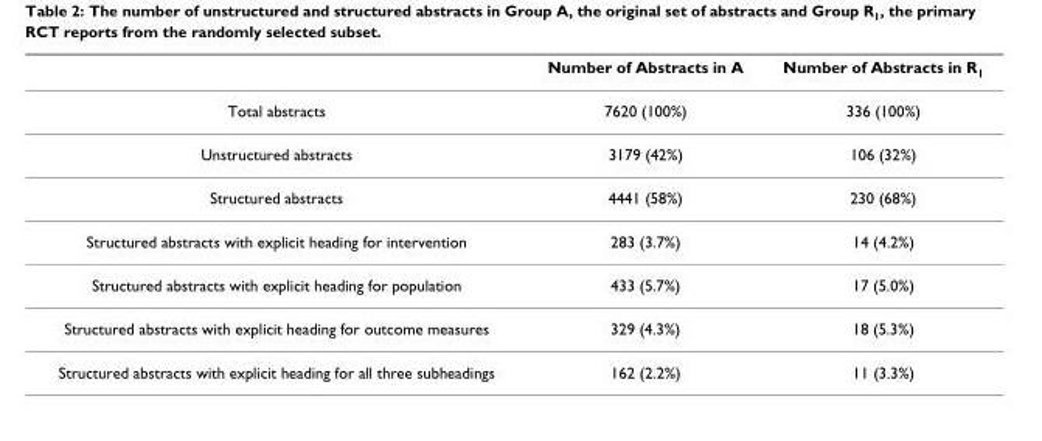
<table><thead><tr><td></td><td>Number of Abstracts in A</td><td>Number of Abstracts in R<sub>1</sub></td></tr></thead><tbody><tr><td>Total abstracts</td><td>7620 (100%)</td><td>336 (100%)</td></tr><tr><td>Unstructured abstracts</td><td>3179 (42%)</td><td>106 (32%)</td></tr><tr><td>Structured abstracts</td><td>4441 (58%)</td><td>230 (68%)</td></tr><tr><td>Structured abstracts with explicit heading for intervention</td><td>283 (3.7%)</td><td>14 (4.2%)</td></tr><tr><td>Structured abstracts with explicit heading for population</td><td>433 (5.7%)</td><td>17 (5.0%)</td></tr><tr><td>Structured abstracts with explicit heading for outcome measures</td><td>329 (4.3%)</td><td>18 (5.3%)</td></tr><tr><td>Structured abstracts with explicit heading for all three subheadings</td><td>162 (2.2%)</td><td>11 (3.3%)</td></tr></tbody></table>